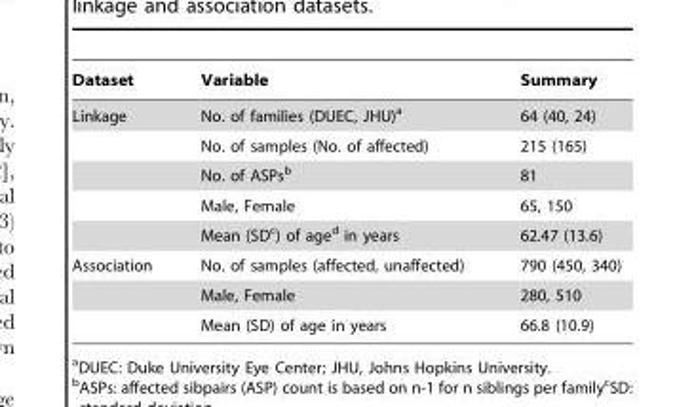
<table><thead><tr><td>Dataset</td><td>Variable</td><td>Summary</td></tr></thead><tbody><tr><td rowspan="5">Linkage</td><td>No. of families (DUEC, JHU)<sup>a</sup></td><td>64 (40, 24)</td></tr><tr><td>No. of samples (No. of affected)</td><td>215 (165)</td></tr><tr><td>No. of ASPs<sup>b</sup></td><td>81</td></tr><tr><td>Male, Female</td><td>65, 150</td></tr><tr><td>Mean (SD<sup>c</sup>) of age<sup>d</sup> in years</td><td>62.47 (13.6)</td></tr><tr><td rowspan="3">Association</td><td>No. of samples (affected, unaffected)</td><td>790 (450, 340)</td></tr><tr><td>Male, Female</td><td>280, 510</td></tr><tr><td>Mean (SD) of age in years</td><td>66.8 (10.9)</td></tr></tbody></table>